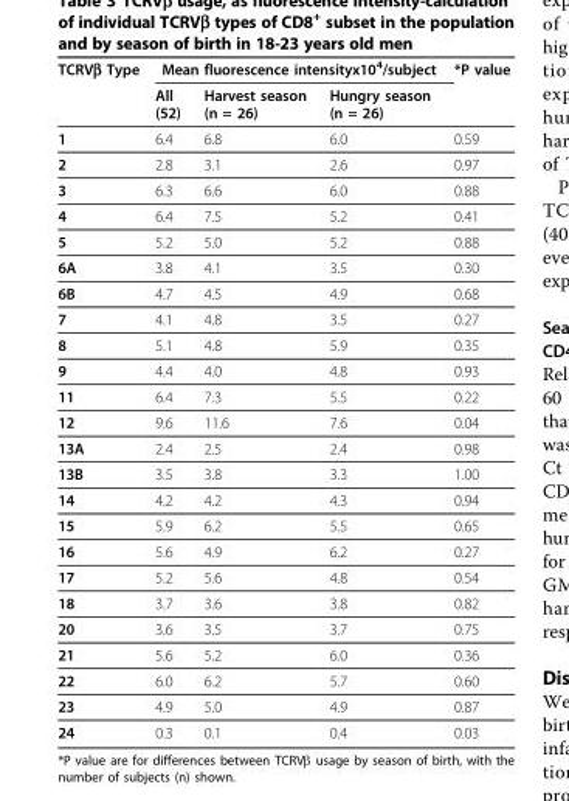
<table><thead><tr><td rowspan="2">TCRVβ Type</td><td colspan="3">Mean fluorescence intensityx10<sup>4</sup>/subject</td><td rowspan="2">*P value</td></tr><tr><td>All (52)</td><td>Harvest season (n = 26)</td><td>Hungry season (n = 26)</td></tr></thead><tbody><tr><td>1</td><td>6.4</td><td>6.8</td><td>6.0</td><td>0.59</td></tr><tr><td>2</td><td>2.8</td><td>3.1</td><td>2.6</td><td>0.97</td></tr><tr><td>3</td><td>6.3</td><td>6.6</td><td>6.0</td><td>0.88</td></tr><tr><td>4</td><td>6.4</td><td>7.5</td><td>5.2</td><td>0.41</td></tr><tr><td>5</td><td>5.2</td><td>5.0</td><td>5.2</td><td>0.88</td></tr><tr><td>6A</td><td>3.8</td><td>4.1</td><td>3.5</td><td>0.30</td></tr><tr><td>6B</td><td>4.7</td><td>4.5</td><td>4.9</td><td>0.68</td></tr><tr><td>7</td><td>4.1</td><td>4.8</td><td>3.5</td><td>0.27</td></tr><tr><td>8</td><td>5.1</td><td>4.8</td><td>5.9</td><td>0.35</td></tr><tr><td>9</td><td>4.4</td><td>4.0</td><td>4.8</td><td>0.93</td></tr><tr><td>11</td><td>6.4</td><td>7.3</td><td>5.5</td><td>0.22</td></tr><tr><td>12</td><td>9.6</td><td>11.6</td><td>7.6</td><td>0.04</td></tr><tr><td>13A</td><td>2.4</td><td>2.5</td><td>2.4</td><td>0.98</td></tr><tr><td>13B</td><td>3.5</td><td>3.8</td><td>3.3</td><td>1.00</td></tr><tr><td>14</td><td>4.2</td><td>4.2</td><td>4.3</td><td>0.94</td></tr><tr><td>15</td><td>5.9</td><td>6.2</td><td>5.5</td><td>0.65</td></tr><tr><td>16</td><td>5.6</td><td>4.9</td><td>6.2</td><td>0.27</td></tr><tr><td>17</td><td>5.2</td><td>5.6</td><td>4.8</td><td>0.54</td></tr><tr><td>18</td><td>3.7</td><td>3.6</td><td>3.8</td><td>0.82</td></tr><tr><td>20</td><td>3.6</td><td>3.5</td><td>3.7</td><td>0.75</td></tr><tr><td>21</td><td>5.6</td><td>5.2</td><td>6.0</td><td>0.36</td></tr><tr><td>22</td><td>6.0</td><td>6.2</td><td>5.7</td><td>0.60</td></tr><tr><td>23</td><td>4.9</td><td>5.0</td><td>4.9</td><td>0.87</td></tr><tr><td>24</td><td>0.3</td><td>0.1</td><td>0.4</td><td>0.03</td></tr></tbody></table>